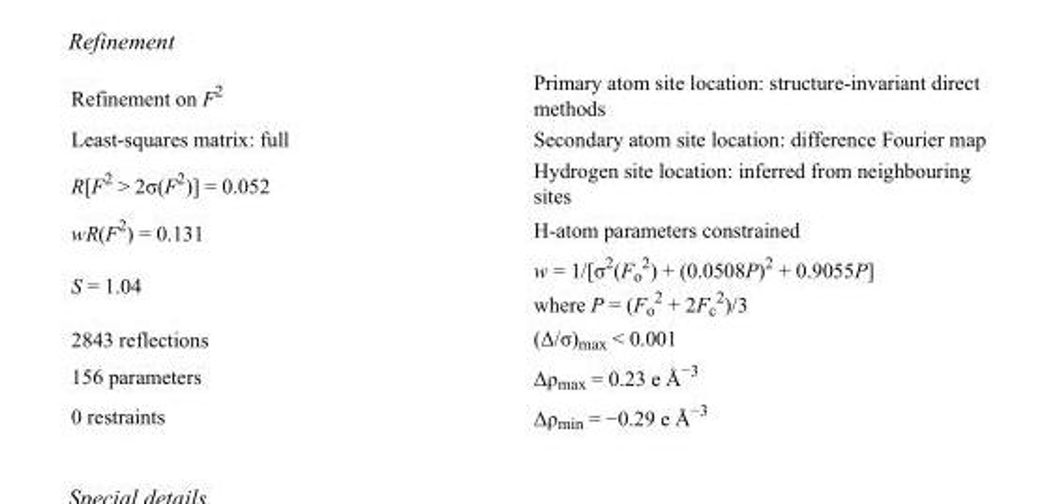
<table><tbody><tr><td>Refinement on F<sup>2</sup></td><td>Primary atom site location: structure-invariant direct methods</td></tr><tr><td>Least-squares matrix: full</td><td>Secondary atom site location: difference Fourier map</td></tr><tr><td>R[F<sup>2</sup> &gt; 2σ(F<sup>2</sup>)] = 0.052</td><td>Hydrogen site location: inferred from neighbouring sites</td></tr><tr><td>wR(F<sup>2</sup>) = 0.131</td><td>H-atom parameters constrained</td></tr><tr><td>S = 1.04</td><td>w = 1/[σ<sup>2</sup>(F<sub>o</sub> <sup>2</sup>) + (0.0508P)<sup>2</sup> + 0.9055P] where P = (F<sub>o</sub> <sup>2</sup> + 2F<sub>c</sub> <sup>2</sup>)/3</td></tr><tr><td>2843 reflections</td><td>(Δ/σ)<sub>max</sub> &lt; 0.001</td></tr><tr><td>156 parameters</td><td>Δρ<sub>max</sub> = 0.23 e Å<sup>−3</sup></td></tr><tr><td>0 restraints</td><td>Δρ<sub>min</sub> = −0.29 e Å<sup>−3</sup></td></tr></tbody></table>